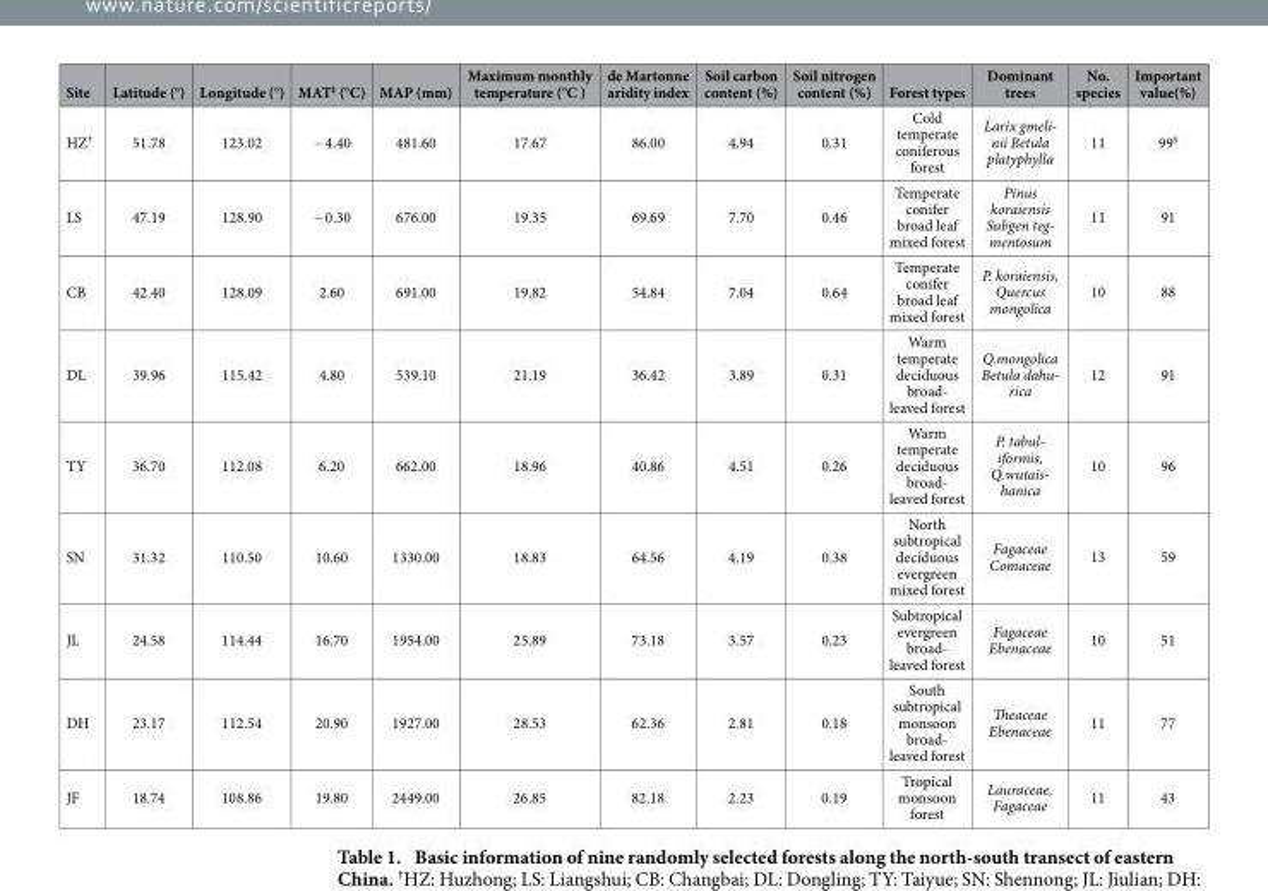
<table><thead><tr><td>Site</td><td>Latitude (°)</td><td>Longitude (°)</td><td>MAT‡ (°C)</td><td>MAP (mm)</td><td>Maximum monthly temperature (°C )</td><td>de Martonne aridity index</td><td>Soil carbon content (%)</td><td>Soil nitrogen content (%)</td><td>Forest types</td><td>Dominant trees</td><td>No. species</td><td>Important value(%)</td></tr></thead><tbody><tr><td>HZ†</td><td>51.78</td><td>123.02</td><td>− 4.40</td><td>481.60</td><td>17.67</td><td>86.00</td><td>4.94</td><td>0.31</td><td>Cold temperate coniferous forest</td><td>Larix gmeli- nii Betula platyphylla</td><td>11</td><td>99§</td></tr><tr><td>LS</td><td>47.19</td><td>128.90</td><td>− 0.30</td><td>676.00</td><td>19.35</td><td>69.69</td><td>7.70</td><td>0.46</td><td>Temperate conifer broad leaf mixed forest</td><td>Pinus koraiensis Subgen teg- mentosum</td><td>11</td><td>91</td></tr><tr><td>CB</td><td>42.40</td><td>128.09</td><td>2.60</td><td>691.00</td><td>19.82</td><td>54.84</td><td>7.04</td><td>0.64</td><td>Temperate conifer broad leaf mixed forest</td><td>P. koraiensis, Quercus mongolica</td><td>10</td><td>88</td></tr><tr><td>DL</td><td>39.96</td><td>115.42</td><td>4.80</td><td>539.10</td><td>21.19</td><td>36.42</td><td>3.89</td><td>0.31</td><td>Warm temperate deciduous broad- leaved forest</td><td>Q.mongolica Betula dahu- rica</td><td>12</td><td>91</td></tr><tr><td>TY</td><td>36.70</td><td>112.08</td><td>6.20</td><td>662.00</td><td>18.96</td><td>40.86</td><td>4.51</td><td>0.26</td><td>Warm temperate deciduous broad- leaved forest</td><td>P. tabul- iformis, Q.wutais- hanica</td><td>10</td><td>96</td></tr><tr><td>SN</td><td>31.32</td><td>110.50</td><td>10.60</td><td>1330.00</td><td>18.83</td><td>64.56</td><td>4.19</td><td>0.38</td><td>North subtropical deciduous evergreen mixed forest</td><td>Fagaceae Comaceae</td><td>13</td><td>59</td></tr><tr><td>JL</td><td>24.58</td><td>114.44</td><td>16.70</td><td>1954.00</td><td>25.89</td><td>73.18</td><td>3.57</td><td>0.23</td><td>Subtropical evergreen broad- leaved forest</td><td>Fagaceae Ebenaceae</td><td>10</td><td>51</td></tr><tr><td>DH</td><td>23.17</td><td>112.54</td><td>20.90</td><td>1927.00</td><td>28.53</td><td>62.36</td><td>2.81</td><td>0.18</td><td>South subtropical monsoon broad- leaved forest</td><td>Theaceae Ebenaceae</td><td>11</td><td>77</td></tr><tr><td>JF</td><td>18.74</td><td>108.86</td><td>19.80</td><td>2449.00</td><td>26.85</td><td>82.18</td><td>2.23</td><td>0.19</td><td>Tropical monsoon forest</td><td>Lauraceae, Fagaceae</td><td>11</td><td>43</td></tr></tbody></table>